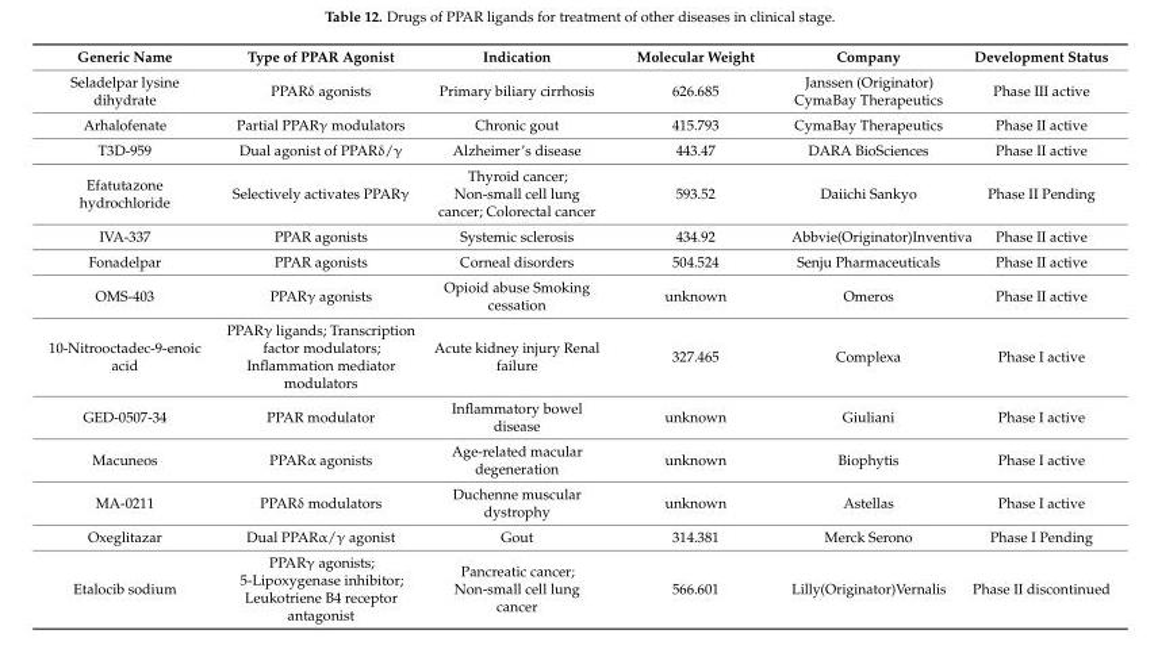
<table><thead><tr><td>Generic Name</td><td>Type of PPAR Agonist</td><td>Indication</td><td>Molecular Weight</td><td>Company</td><td>Development Status</td></tr></thead><tbody><tr><td>Seladelpar lysine dihydrate</td><td>PPARδ agonists</td><td>Primary biliary cirrhosis</td><td>626.685</td><td>Janssen (Originator) CymaBay Therapeutics</td><td>Phase III active</td></tr><tr><td>Arhalofenate</td><td>Partial PPARγ modulators</td><td>Chronic gout</td><td>415.793</td><td>CymaBay Therapeutics</td><td>Phase II active</td></tr><tr><td>T3D-959</td><td>Dual agonist of PPARδ/γ</td><td>Alzheimer’s disease</td><td>443.47</td><td>DARA BioSciences</td><td>Phase II active</td></tr><tr><td>Efatutazone hydrochloride</td><td>Selectively activates PPARγ</td><td>Thyroid cancer; Non-small cell lung cancer; Colorectal cancer</td><td>593.52</td><td>Daiichi Sankyo</td><td>Phase II Pending</td></tr><tr><td>IVA-337</td><td>PPAR agonists</td><td>Systemic sclerosis</td><td>434.92</td><td>Abbvie(Originator)Inventiva</td><td>Phase II active</td></tr><tr><td>Fonadelpar</td><td>PPAR agonists</td><td>Corneal disorders</td><td>504.524</td><td>Senju Pharmaceuticals</td><td>Phase II active</td></tr><tr><td>OMS-403</td><td>PPARγ agonists</td><td>Opioid abuse Smoking cessation</td><td>unknown</td><td>Omeros</td><td>Phase II active</td></tr><tr><td>10-Nitrooctadec-9-enoic acid</td><td>PPARγ ligands; Transcription factor modulators; Inflammation mediator modulators</td><td>Acute kidney injury Renal failure</td><td>327.465</td><td>Complexa</td><td>Phase I active</td></tr><tr><td>GED-0507-34</td><td>PPAR modulator</td><td>Inflammatory bowel disease</td><td>unknown</td><td>Giuliani</td><td>Phase I active</td></tr><tr><td>Macuneos</td><td>PPARα agonists</td><td>Age-related macular degeneration</td><td>unknown</td><td>Biophytis</td><td>Phase I active</td></tr><tr><td>MA-0211</td><td>PPARδ modulators</td><td>Duchenne muscular dystrophy</td><td>unknown</td><td>Astellas</td><td>Phase I active</td></tr><tr><td>Oxeglitazar</td><td>Dual PPARα/γ agonist</td><td>Gout</td><td>314.381</td><td>Merck Serono</td><td>Phase I Pending</td></tr><tr><td>Etalocib sodium</td><td>PPARγ agonists; 5-Lipoxygenase inhibitor; Leukotriene B4 receptor antagonist</td><td>Pancreatic cancer; Non-small cell lung cancer</td><td>566.601</td><td>Lilly(Originator)Vernalis</td><td>Phase II discontinued</td></tr></tbody></table>